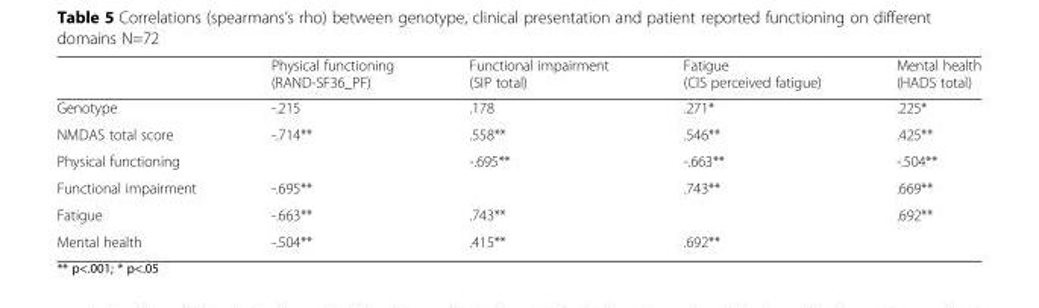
<table><thead><tr><td></td><td>Physical functioning (RAND-SF36_PF)</td><td>Functional impairment (SIP total)</td><td>Fatigue (CIS perceived fatigue)</td><td>Mental health (HADS total)</td></tr></thead><tbody><tr><td>Genotype</td><td>-.215</td><td>.178</td><td>.271*</td><td>.225*</td></tr><tr><td>NMDAS total score</td><td>-.714**</td><td>.558**</td><td>.546**</td><td>.425**</td></tr><tr><td>Physical functioning</td><td></td><td>-.695**</td><td>-.663**</td><td>-.504**</td></tr><tr><td>Functional impairment</td><td>-.695**</td><td></td><td>.743**</td><td>.669**</td></tr><tr><td>Fatigue</td><td>-.663**</td><td>.743**</td><td></td><td>.692**</td></tr><tr><td>Mental health</td><td>-.504**</td><td>.415**</td><td>.692**</td><td></td></tr></tbody></table>